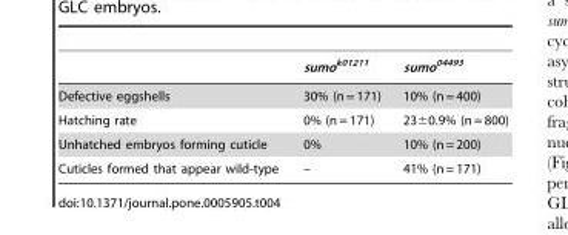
<table><thead><tr><td></td><td>sumo<sup>k01211</sup></td><td>sumo<sup>04493</sup></td></tr></thead><tbody><tr><td>Defective eggshells</td><td>30% (n = 171)</td><td>10% (n = 400)</td></tr><tr><td>Hatching rate</td><td>0% (n = 171)</td><td>23±0.9% (n = 800)</td></tr><tr><td>Unhatched embryos forming cuticle</td><td>0%</td><td>10% (n = 200)</td></tr><tr><td>Cuticles formed that appear wild-type</td><td>–</td><td>41% (n = 171)</td></tr></tbody></table>